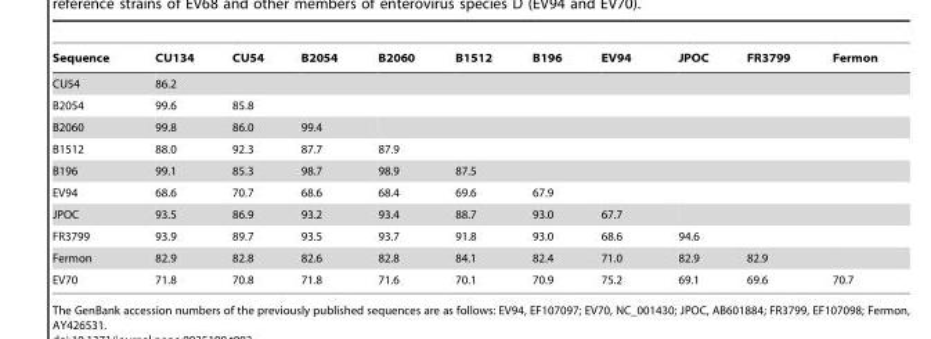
<table><thead><tr><td>Sequence</td><td>CU134</td><td>CU54</td><td>B2054</td><td>B2060</td><td>B1512</td><td>B196</td><td>EV94</td><td>JPOC</td><td>FR3799</td><td>Fermon</td></tr></thead><tbody><tr><td>CU54</td><td>86.2</td><td colspan="9"></td></tr><tr><td>B2054</td><td>99.6</td><td>85.8</td><td colspan="8"></td></tr><tr><td>B2060</td><td>99.8</td><td>86.0</td><td>99.4</td><td colspan="7"></td></tr><tr><td>B1512</td><td>88.0</td><td>92.3</td><td>87.7</td><td>87.9</td><td colspan="6"></td></tr><tr><td>B196</td><td>99.1</td><td>85.3</td><td>98.7</td><td>98.9</td><td>87.5</td><td colspan="5"></td></tr><tr><td>EV94</td><td>68.6</td><td>70.7</td><td>68.6</td><td>68.4</td><td>69.6</td><td>67.9</td><td colspan="4"></td></tr><tr><td>JPOC</td><td>93.5</td><td>86.9</td><td>93.2</td><td>93.4</td><td>88.7</td><td>93.0</td><td>67.7</td><td colspan="3"></td></tr><tr><td>FR3799</td><td>93.9</td><td>89.7</td><td>93.5</td><td>93.7</td><td>91.8</td><td>93.0</td><td>68.6</td><td>94.6</td><td colspan="2"></td></tr><tr><td>Fermon</td><td>82.9</td><td>82.8</td><td>82.6</td><td>82.8</td><td>84.1</td><td>82.4</td><td>71.0</td><td>82.9</td><td>82.9</td><td></td></tr><tr><td>EV70</td><td>71.8</td><td>70.8</td><td>71.8</td><td>71.6</td><td>70.1</td><td>70.9</td><td>75.2</td><td>69.1</td><td>69.6</td><td>70.7</td></tr></tbody></table>